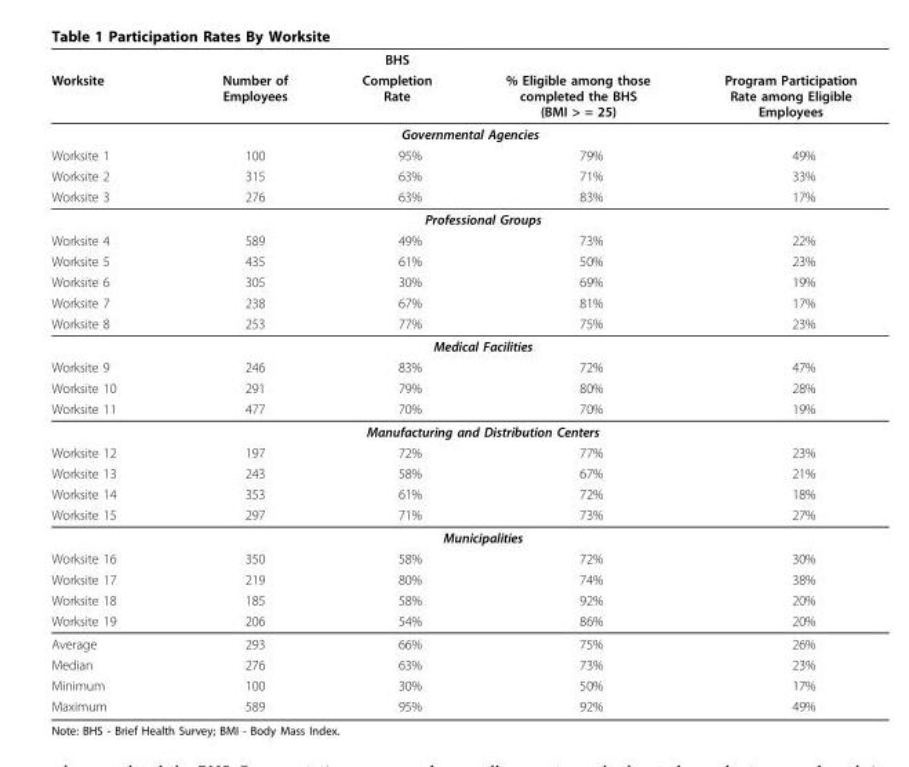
<table><thead><tr><td rowspan="2">Worksite</td><td rowspan="2">Number of Employees</td><td rowspan="2">BHS Completion Rate</td><td rowspan="2">% Eligible among those completed the BHS (BMI &gt; = 25)</td><td rowspan="2">Program Participation Rate among Eligible Employees</td></tr><tr></tr></thead><tbody><tr><td colspan="5">Governmental Agencies</td></tr><tr><td>Worksite 1</td><td>100</td><td>95%</td><td>79%</td><td>49%</td></tr><tr><td>Worksite 2</td><td>315</td><td>63%</td><td>71%</td><td>33%</td></tr><tr><td>Worksite 3</td><td>276</td><td>63%</td><td>83%</td><td>17%</td></tr><tr><td colspan="5">Professional Groups</td></tr><tr><td>Worksite 4</td><td>589</td><td>49%</td><td>73%</td><td>22%</td></tr><tr><td>Worksite 5</td><td>435</td><td>61%</td><td>50%</td><td>23%</td></tr><tr><td>Worksite 6</td><td>305</td><td>30%</td><td>69%</td><td>19%</td></tr><tr><td>Worksite 7</td><td>238</td><td>67%</td><td>81%</td><td>17%</td></tr><tr><td>Worksite 8</td><td>253</td><td>77%</td><td>75%</td><td>23%</td></tr><tr><td colspan="5">Medical Facilities</td></tr><tr><td>Worksite 9</td><td>246</td><td>83%</td><td>72%</td><td>47%</td></tr><tr><td>Worksite 10</td><td>291</td><td>79%</td><td>80%</td><td>28%</td></tr><tr><td>Worksite 11</td><td>477</td><td>70%</td><td>70%</td><td>19%</td></tr><tr><td colspan="5">Manufacturing and Distribution Centers</td></tr><tr><td>Worksite 12</td><td>197</td><td>72%</td><td>77%</td><td>23%</td></tr><tr><td>Worksite 13</td><td>243</td><td>58%</td><td>67%</td><td>21%</td></tr><tr><td>Worksite 14</td><td>353</td><td>61%</td><td>72%</td><td>18%</td></tr><tr><td>Worksite 15</td><td>297</td><td>71%</td><td>73%</td><td>27%</td></tr><tr><td colspan="5">Municipalities</td></tr><tr><td>Worksite 16</td><td>350</td><td>58%</td><td>72%</td><td>30%</td></tr><tr><td>Worksite 17</td><td>219</td><td>80%</td><td>74%</td><td>38%</td></tr><tr><td>Worksite 18</td><td>185</td><td>58%</td><td>92%</td><td>20%</td></tr><tr><td>Worksite 19</td><td>206</td><td>54%</td><td>86%</td><td>20%</td></tr><tr><td>Average</td><td>293</td><td>66%</td><td>75%</td><td>26%</td></tr><tr><td>Median</td><td>276</td><td>63%</td><td>73%</td><td>23%</td></tr><tr><td>Minimum</td><td>100</td><td>30%</td><td>50%</td><td>17%</td></tr><tr><td>Maximum</td><td>589</td><td>95%</td><td>92%</td><td>49%</td></tr></tbody></table>